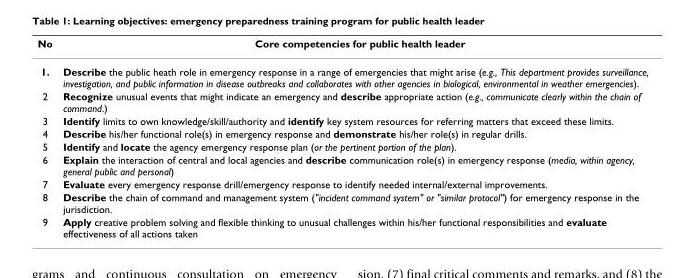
<table><thead><tr><td>No</td><td>Core competencies for public health leader</td></tr></thead><tbody><tr><td>1.</td><td>Describe the public heath role in emergency response in a range of emergencies that might arise (e.g., This department provides surveillance, investigation, and public information in disease outbreaks and collaborates with other agencies in biological, environmental in weather emergencies).</td></tr><tr><td>2</td><td>Recognize unusual events that might indicate an emergency and describe appropriate action (e.g., communicate clearly within the chain of command.)</td></tr><tr><td>3</td><td>Identify limits to own knowledge/skill/authority and identify key system resources for referring matters that exceed these limits.</td></tr><tr><td>4</td><td>Describe his/her functional role(s) in emergency response and demonstrate his/her role(s) in regular drills.</td></tr><tr><td>5</td><td>Identify and locate the agency emergency response plan (or the pertinent portion of the plan).</td></tr><tr><td>6</td><td>Explain the interaction of central and local agencies and describe communication role(s) in emergency response (media, within agency, general public and personal)</td></tr><tr><td>7</td><td>Evaluate every emergency response drill/emergency response to identify needed internal/external improvements.</td></tr><tr><td>8</td><td>Describe the chain of command and management system (&quot;incident command system&quot; or &quot;similar protocol&quot;) for emergency response in the jurisdiction.</td></tr><tr><td>9</td><td>Apply creative problem solving and flexible thinking to unusual challenges within his/her functional responsibilities and evaluate effectiveness of all actions taken</td></tr></tbody></table>